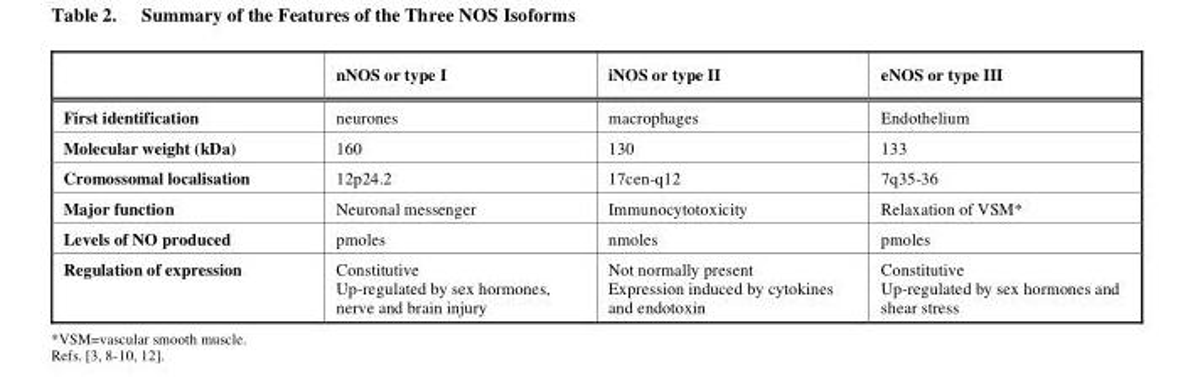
<table><thead><tr><td></td><td>nNOS or type I</td><td>iNOS or type II</td><td>eNOS or type III</td></tr></thead><tbody><tr><td>First identification</td><td>neurones</td><td>macrophages</td><td>Endothelium</td></tr><tr><td>Molecular weight (kDa)</td><td>160</td><td>130</td><td>133</td></tr><tr><td>Cromossomal localisation</td><td>12p24.2</td><td>17cen-q12</td><td>7q35-36</td></tr><tr><td>Major function</td><td>Neuronal messenger</td><td>Immunocytotoxicity</td><td>Relaxation of VSM*</td></tr><tr><td>Levels of NO produced</td><td>pmoles</td><td>nmoles</td><td>pmoles</td></tr><tr><td>Regulation of expression</td><td>Constitutive Up-regulated by sex hormones, nerve and brain injury</td><td>Not normally present Expression induced by cytokines and endotoxin</td><td>Constitutive Up-regulated by sex hormones and shear stress</td></tr></tbody></table>